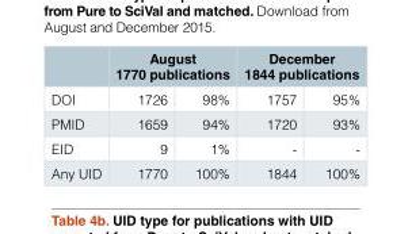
<table><thead><tr><td rowspan="2">DOI</td><td colspan="2">August 1770 publications</td><td colspan="2">December 1844 publications</td></tr><tr><td>1726</td><td>98%</td><td>1757</td><td>95%</td></tr></thead><tbody><tr><td>PMID</td><td>1659</td><td>94%</td><td>1720</td><td>93%</td></tr><tr><td>EID</td><td>9</td><td>1%</td><td>-</td><td>-</td></tr><tr><td>Any UID</td><td>1770</td><td>100%</td><td>1844</td><td>100%</td></tr></tbody></table>